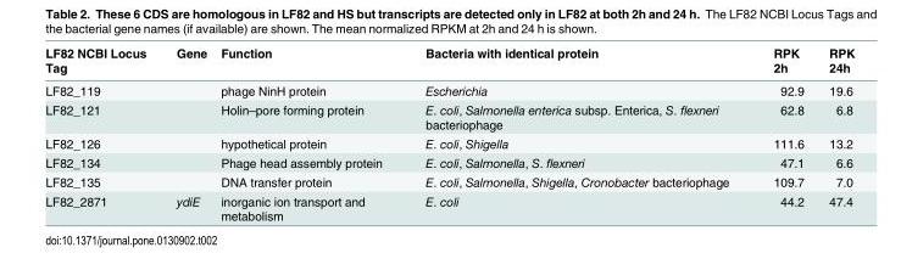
<table><thead><tr><td>LF82 NCBI Locus Tag</td><td>Gene</td><td>Function</td><td>Bacteria with identical protein</td><td>RPK 2h</td><td>RPK 24h</td></tr></thead><tbody><tr><td>LF82_119</td><td></td><td>phage NinH protein</td><td>Escherichia</td><td>92.9</td><td>19.6</td></tr><tr><td>LF82_121</td><td></td><td>Holin–pore forming protein</td><td>E. coli, Salmonella enterica subsp. Enterica, S. flexneri bacteriophage</td><td>62.8</td><td>6.8</td></tr><tr><td>LF82_126</td><td></td><td>hypothetical protein</td><td>E. coli, Shigella</td><td>111.6</td><td>13.2</td></tr><tr><td>LF82_134</td><td></td><td>Phage head assembly protein</td><td>E. coli, Salmonella, S. flexneri</td><td>47.1</td><td>6.6</td></tr><tr><td>LF82_135</td><td></td><td>DNA transfer protein</td><td>E. coli, Salmonella, Shigella, Cronobacter bacteriophage</td><td>109.7</td><td>7.0</td></tr><tr><td>LF82_2871</td><td>ydiE</td><td>inorganic ion transport and metabolism</td><td>E. coli</td><td>44.2</td><td>47.4</td></tr></tbody></table>